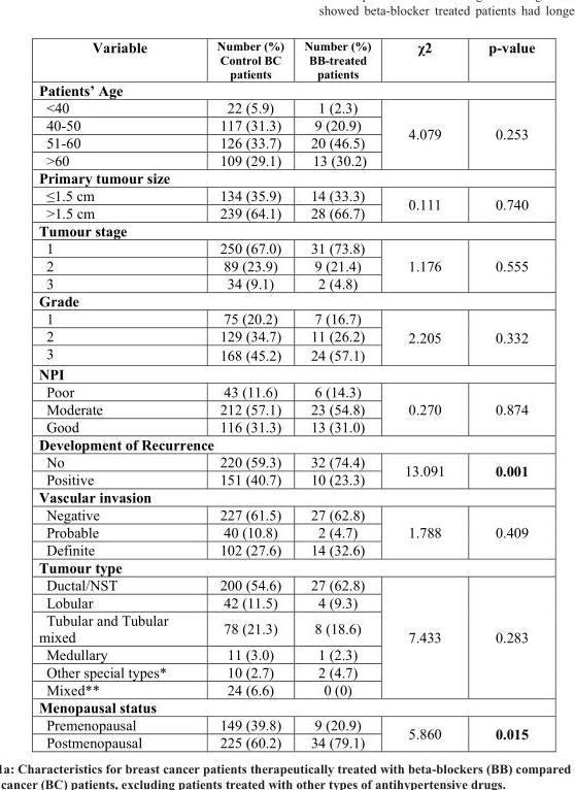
<table><thead><tr><td>Variable</td><td>Number (%) control bc patients</td><td>Number (%) bb-treated patients</td><td>χ<sup>2</sup></td><td>p-value</td></tr></thead><tbody><tr><td colspan="5">Patients’ Age</td></tr><tr><td>&lt;40</td><td>22 (5.9)</td><td>1 (2.3)</td><td rowspan="4">4.079</td><td rowspan="4">0.253</td></tr><tr><td>40-50</td><td>117 (31.3)</td><td>9 (20.9)</td></tr><tr><td>51-60</td><td>126 (33.7)</td><td>20 (46.5)</td></tr><tr><td>&gt;60</td><td>109 (29.1)</td><td>13 (30.2)</td></tr><tr><td colspan="5">Primary tumour size</td></tr><tr><td>≤1.5 cm</td><td>134 (35.9)</td><td>14 (33.3)</td><td rowspan="2">0.111</td><td rowspan="2">0.740</td></tr><tr><td>&gt;1.5 cm</td><td>239 (64.1)</td><td>28 (66.7)</td></tr><tr><td colspan="5">tumour stage</td></tr><tr><td>1</td><td>250 (67.0)</td><td>31 (73.8)</td><td rowspan="3">1.176</td><td rowspan="3">0.555</td></tr><tr><td>2</td><td>89 (23.9)</td><td>9 (21.4)</td></tr><tr><td>3</td><td>34 (9.1)</td><td>2 (4.8)</td></tr><tr><td colspan="5">Grade</td></tr><tr><td>1</td><td>75 (20.2)</td><td>7 (16.7)</td><td rowspan="3">2.205</td><td rowspan="3">0.332</td></tr><tr><td>2</td><td>129 (34.7)</td><td>11 (26.2)</td></tr><tr><td>3</td><td>168 (45.2)</td><td>24 (57.1)</td></tr><tr><td colspan="5">NPI</td></tr><tr><td>Poor</td><td>43 (11.6)</td><td>6 (14.3)</td><td rowspan="3">0.270</td><td rowspan="3">0.874</td></tr><tr><td>Moderate</td><td>212 (57.1)</td><td>23 (54.8)</td></tr><tr><td>Good</td><td>116 (31.3)</td><td>13 (31.0)</td></tr><tr><td colspan="5">Development of recurrence</td></tr><tr><td>No</td><td>220 (59.3)</td><td>32 (74.4)</td><td rowspan="2">13.091</td><td rowspan="2">0.001</td></tr><tr><td>Positive</td><td>151 (40.7)</td><td>10 (23.3)</td></tr><tr><td colspan="5">Vascular invasion</td></tr><tr><td>Negative</td><td>227 (61.5)</td><td>27 (62.8)</td><td rowspan="3">1.788</td><td rowspan="3">0.409</td></tr><tr><td>Probable</td><td>40 (10.8)</td><td>2 (4.7)</td></tr><tr><td>Definite</td><td>102 (27.6)</td><td>14 (32.6)</td></tr><tr><td colspan="5">tumour type</td></tr><tr><td>Ductal/NST</td><td>200 (54.6)</td><td>27 (62.8)</td><td rowspan="6">7.433</td><td rowspan="6">0.283</td></tr><tr><td>Lobular</td><td>42 (11.5)</td><td>4 (9.3)</td></tr><tr><td>Tubular and Tubular mixed</td><td>78 (21.3)</td><td>8 (18.6)</td></tr><tr><td>Medullary</td><td>11 (3.0)</td><td>1 (2.3)</td></tr><tr><td>Other special types*</td><td>10 (2.7)</td><td>2 (4.7)</td></tr><tr><td>Mixed**</td><td>24 (6.6)</td><td>0 (0)</td></tr><tr><td colspan="5">menopausal status</td></tr><tr><td>Premenopausal</td><td>149 (39.8)</td><td>9 (20.9)</td><td rowspan="2">5.860</td><td rowspan="2">0.015</td></tr><tr><td>Postmenopausal</td><td>225 (60.2)</td><td>34 (79.1)</td></tr></tbody></table>